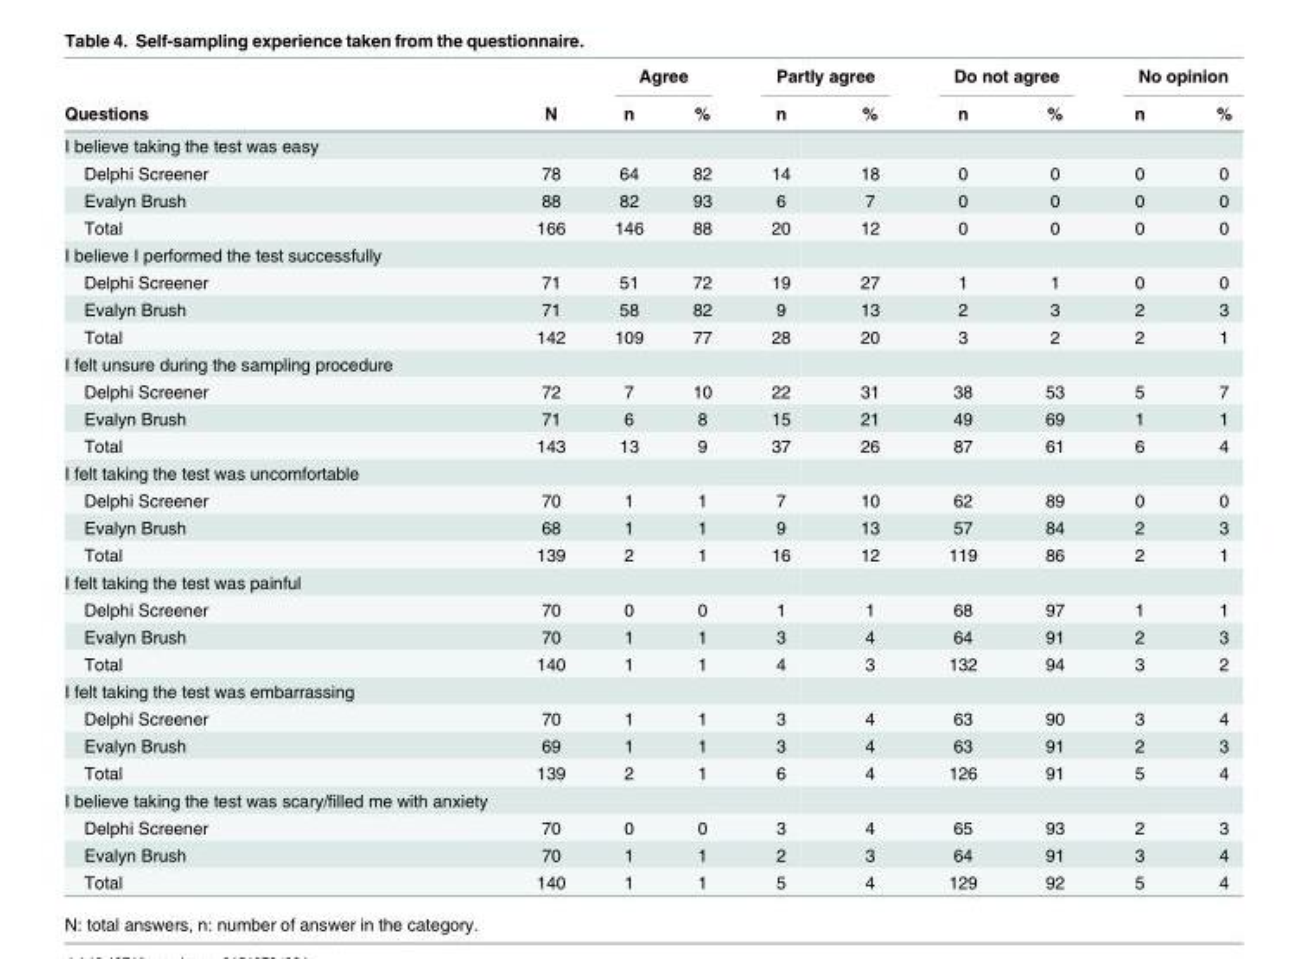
<table><thead><tr><td rowspan="2">Questions</td><td rowspan="2">N</td><td colspan="2">Agree</td><td colspan="2">Partly agree</td><td colspan="2">Do not agree</td><td colspan="2">No opinion</td></tr><tr><td>n</td><td>%</td><td>n</td><td>%</td><td>n</td><td>%</td><td>n</td><td>%</td></tr></thead><tbody><tr><td colspan="10">I believe taking the test was easy</td></tr><tr><td>Delphi Screener</td><td>78</td><td>64</td><td>82</td><td>14</td><td>18</td><td>0</td><td>0</td><td>0</td><td>0</td></tr><tr><td>Evalyn Brush</td><td>88</td><td>82</td><td>93</td><td>6</td><td>7</td><td>0</td><td>0</td><td>0</td><td>0</td></tr><tr><td>Total</td><td>166</td><td>146</td><td>88</td><td>20</td><td>12</td><td>0</td><td>0</td><td>0</td><td>0</td></tr><tr><td colspan="10">I believe I performed the test successfully</td></tr><tr><td>Delphi Screener</td><td>71</td><td>51</td><td>72</td><td>19</td><td>27</td><td>1</td><td>1</td><td>0</td><td>0</td></tr><tr><td>Evalyn Brush</td><td>71</td><td>58</td><td>82</td><td>9</td><td>13</td><td>2</td><td>3</td><td>2</td><td>3</td></tr><tr><td>Total</td><td>142</td><td>109</td><td>77</td><td>28</td><td>20</td><td>3</td><td>2</td><td>2</td><td>1</td></tr><tr><td colspan="10">I felt unsure during the sampling procedure</td></tr><tr><td>Delphi Screener</td><td>72</td><td>7</td><td>10</td><td>22</td><td>31</td><td>38</td><td>53</td><td>5</td><td>7</td></tr><tr><td>Evalyn Brush</td><td>71</td><td>6</td><td>8</td><td>15</td><td>21</td><td>49</td><td>69</td><td>1</td><td>1</td></tr><tr><td>Total</td><td>143</td><td>13</td><td>9</td><td>37</td><td>26</td><td>87</td><td>61</td><td>6</td><td>4</td></tr><tr><td colspan="10">I felt taking the test was uncomfortable</td></tr><tr><td>Delphi Screener</td><td>70</td><td>1</td><td>1</td><td>7</td><td>10</td><td>62</td><td>89</td><td>0</td><td>0</td></tr><tr><td>Evalyn Brush</td><td>68</td><td>1</td><td>1</td><td>9</td><td>13</td><td>57</td><td>84</td><td>2</td><td>3</td></tr><tr><td>Total</td><td>139</td><td>2</td><td>1</td><td>16</td><td>12</td><td>119</td><td>86</td><td>2</td><td>1</td></tr><tr><td colspan="10">I felt taking the test was painful</td></tr><tr><td>Delphi Screener</td><td>70</td><td>0</td><td>0</td><td>1</td><td>1</td><td>68</td><td>97</td><td>1</td><td>1</td></tr><tr><td>Evalyn Brush</td><td>70</td><td>1</td><td>1</td><td>3</td><td>4</td><td>64</td><td>91</td><td>2</td><td>3</td></tr><tr><td>Total</td><td>140</td><td>1</td><td>1</td><td>4</td><td>3</td><td>132</td><td>94</td><td>3</td><td>2</td></tr><tr><td colspan="10">I felt taking the test was embarrassing</td></tr><tr><td>Delphi Screener</td><td>70</td><td>1</td><td>1</td><td>3</td><td>4</td><td>63</td><td>90</td><td>3</td><td>4</td></tr><tr><td>Evalyn Brush</td><td>69</td><td>1</td><td>1</td><td>3</td><td>4</td><td>63</td><td>91</td><td>2</td><td>3</td></tr><tr><td>Total</td><td>139</td><td>2</td><td>1</td><td>6</td><td>4</td><td>126</td><td>91</td><td>5</td><td>4</td></tr><tr><td colspan="10">I believe taking the test was scary/filled me with anxiety</td></tr><tr><td>Delphi Screener</td><td>70</td><td>0</td><td>0</td><td>3</td><td>4</td><td>65</td><td>93</td><td>2</td><td>3</td></tr><tr><td>Evalyn Brush</td><td>70</td><td>1</td><td>1</td><td>2</td><td>3</td><td>64</td><td>91</td><td>3</td><td>4</td></tr><tr><td>Total</td><td>140</td><td>1</td><td>1</td><td>5</td><td>4</td><td>129</td><td>92</td><td>5</td><td>4</td></tr></tbody></table>